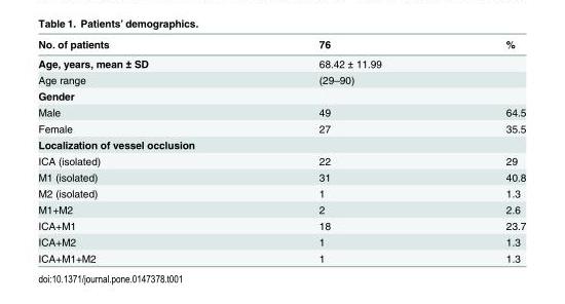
<table><thead><tr><td>No. of patients</td><td>76</td><td>%</td></tr></thead><tbody><tr><td>Age, years, mean ± SD</td><td>68.42 ± 11.99</td><td></td></tr><tr><td>Age range</td><td>(29–90)</td><td></td></tr><tr><td colspan="3">Gender</td></tr><tr><td>Male</td><td>49</td><td>64.5</td></tr><tr><td>Female</td><td>27</td><td>35.5</td></tr><tr><td colspan="3">Localization of vessel occlusion</td></tr><tr><td>ICA (isolated)</td><td>22</td><td>29</td></tr><tr><td>M1 (isolated)</td><td>31</td><td>40.8</td></tr><tr><td>M2 (isolated)</td><td>1</td><td>1.3</td></tr><tr><td>M1+M2</td><td>2</td><td>2.6</td></tr><tr><td>ICA+M1</td><td>18</td><td>23.7</td></tr><tr><td>ICA+M2</td><td>1</td><td>1.3</td></tr><tr><td>ICA+M1+M2</td><td>1</td><td>1.3</td></tr></tbody></table>